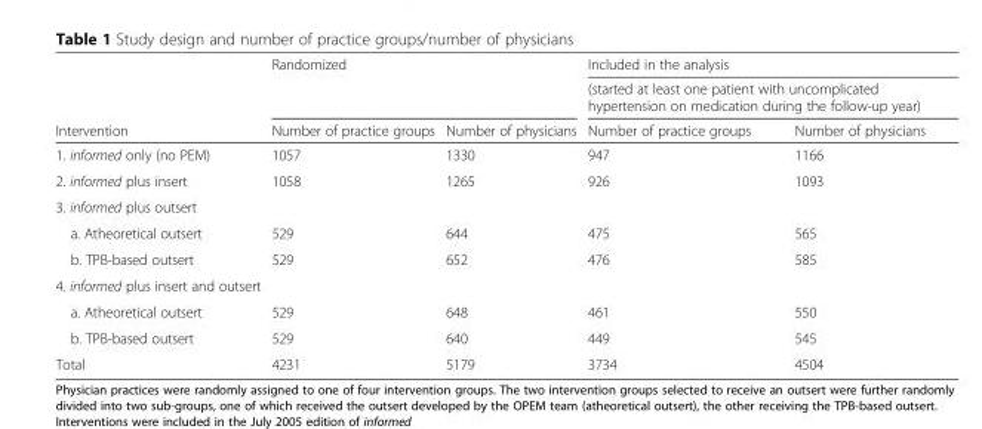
<table><thead><tr><td rowspan="3">Intervention</td><td rowspan="2" colspan="2">Randomized</td><td rowspan="2" colspan="2">Included in the analysis (started at least one patient with uncomplicated hypertension on medication during the follow-up year)</td></tr><tr></tr><tr><td>Number of practice groups</td><td>Number of physicians</td><td>Number of practice groups</td><td>Number of physicians</td></tr></thead><tbody><tr><td>1. informed only (no PEM)</td><td>1057</td><td>1330</td><td>947</td><td>1166</td></tr><tr><td>2. informed plus insert</td><td>1058</td><td>1265</td><td>926</td><td>1093</td></tr><tr><td colspan="5">3. informed plus outsert</td></tr><tr><td>a. Atheoretical outsert</td><td>529</td><td>644</td><td>475</td><td>565</td></tr><tr><td>b. TPB-based outsert</td><td>529</td><td>652</td><td>476</td><td>585</td></tr><tr><td colspan="5">4. informed plus insert and outsert</td></tr><tr><td>a. Atheoretical outsert</td><td>529</td><td>648</td><td>461</td><td>550</td></tr><tr><td>b. TPB-based outsert</td><td>529</td><td>640</td><td>449</td><td>545</td></tr><tr><td>Total</td><td>4231</td><td>5179</td><td>3734</td><td>4504</td></tr></tbody></table>